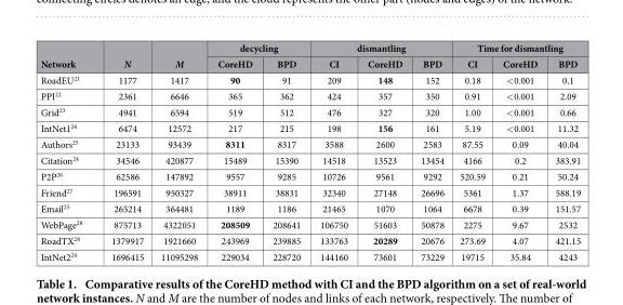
<table><thead><tr><td rowspan="2">Network</td><td rowspan="2">N</td><td rowspan="2">M</td><td colspan="2">decycling</td><td colspan="3">dismantling</td><td colspan="3">Time for dismantling</td></tr><tr><td>CoreHD</td><td>BPD</td><td>CI</td><td>CoreHD</td><td>BPD</td><td>CI</td><td>CoreHD</td><td>BPD</td></tr></thead><tbody><tr><td>RoadEU<sup>21</sup></td><td>1177</td><td>1417</td><td>90</td><td>91</td><td>209</td><td>148</td><td>152</td><td>0.18</td><td>&lt; 0.001</td><td>0.1</td></tr><tr><td>PPI<sup>22</sup></td><td>2361</td><td>6646</td><td>365</td><td>362</td><td>424</td><td>357</td><td>350</td><td>0.91</td><td>&lt; 0.001</td><td>2.09</td></tr><tr><td>Grid<sup>23</sup></td><td>4941</td><td>6594</td><td>519</td><td>512</td><td>476</td><td>327</td><td>320</td><td>1.00</td><td>&lt; 0.001</td><td>0.66</td></tr><tr><td>IntNet1<sup>24</sup></td><td>6474</td><td>12572</td><td>217</td><td>215</td><td>198</td><td>156</td><td>161</td><td>5.19</td><td>&lt; 0.001</td><td>11.32</td></tr><tr><td>Authors<sup>25</sup></td><td>23133</td><td>93439</td><td>8311</td><td>8317</td><td>3588</td><td>2600</td><td>2583</td><td>87.55</td><td>0.09</td><td>40.04</td></tr><tr><td>Citation<sup>24</sup></td><td>34546</td><td>420877</td><td>15489</td><td>15390</td><td>14518</td><td>13523</td><td>13454</td><td>4166</td><td>0.2</td><td>383.91</td></tr><tr><td>P2P<sup>26</sup></td><td>62586</td><td>147892</td><td>9557</td><td>9285</td><td>10726</td><td>9561</td><td>9292</td><td>520.59</td><td>0.21</td><td>50.24</td></tr><tr><td>Friend<sup>27</sup></td><td>196591</td><td>950327</td><td>38911</td><td>38831</td><td>32340</td><td>27148</td><td>26696</td><td>5361</td><td>1.37</td><td>588.19</td></tr><tr><td>Email<sup>25</sup></td><td>265214</td><td>364481</td><td>1189</td><td>1186</td><td>21465</td><td>1070</td><td>1064</td><td>6678</td><td>0.39</td><td>151.57</td></tr><tr><td>WebPage<sup>28</sup></td><td>875713</td><td>4322051</td><td>208509</td><td>208641</td><td>106750</td><td>51603</td><td>50878</td><td>2275</td><td>9.67</td><td>2532</td></tr><tr><td>RoadTX<sup>28</sup></td><td>1379917</td><td>1921660</td><td>243969</td><td>239885</td><td>133763</td><td>20289</td><td>20676</td><td>273.69</td><td>4.07</td><td>421.15</td></tr><tr><td>IntNet2<sup>24</sup></td><td>1696415</td><td>11095298</td><td>229034</td><td>228720</td><td>144160</td><td>73601</td><td>73229</td><td>19715</td><td>35.84</td><td>4243</td></tr></tbody></table>